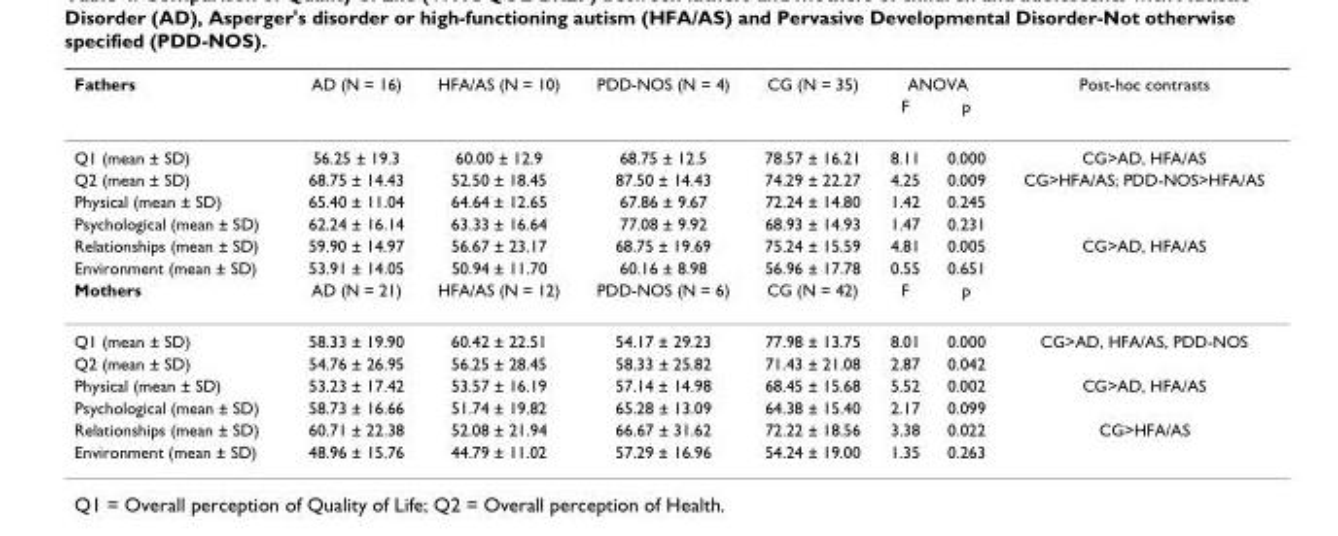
<table><thead><tr><td rowspan="2">Fathers</td><td rowspan="2">AD (N = 16)</td><td rowspan="2">HFA/AS (N = 10)</td><td rowspan="2">PDD-NOS (N = 4)</td><td rowspan="2">CG (N = 35)</td><td colspan="2">ANOVA</td><td rowspan="2">Post-hoc contrasts</td></tr><tr><td>F</td><td>p</td></tr></thead><tbody><tr><td>Q1 (mean ± SD)</td><td>56.25 ± 19.3</td><td>60.00 ± 12.9</td><td>68.75 ± 12.5</td><td>78.57 ± 16.21</td><td>8.11</td><td>0.000</td><td>CG&gt;AD, HFA/AS</td></tr><tr><td>Q2 (mean ± SD)</td><td>68.75 ± 14.43</td><td>52.50 ± 18.45</td><td>87.50 ± 14.43</td><td>74.29 ± 22.27</td><td>4.25</td><td>0.009</td><td>CG&gt;HFA/AS; PDD-NOS&gt;HFA/AS</td></tr><tr><td>Physical (mean ± SD)</td><td>65.40 ± 11.04</td><td>64.64 ± 12.65</td><td>67.86 ± 9.67</td><td>72.24 ± 14.80</td><td>1.42</td><td>0.245</td><td></td></tr><tr><td>Psychological (mean ± SD)</td><td>62.24 ± 16.14</td><td>63.33 ± 16.64</td><td>77.08 ± 9.92</td><td>68.93 ± 14.93</td><td>1.47</td><td>0.231</td><td></td></tr><tr><td>Relationships (mean ± SD)</td><td>59.90 ± 14.97</td><td>56.67 ± 23.17</td><td>68.75 ± 19.69</td><td>75.24 ± 15.59</td><td>4.81</td><td>0.005</td><td>CG&gt;AD, HFA/AS</td></tr><tr><td>Environment (mean ± SD)</td><td>53.91 ± 14.05</td><td>50.94 ± 11.70</td><td>60.16 ± 8.98</td><td>56.96 ± 17.78</td><td>0.55</td><td>0.651</td><td></td></tr><tr><td>Mothers</td><td>AD (N = 21)</td><td>HFA/AS (N = 12)</td><td>PDD-NOS (N = 6)</td><td>CG (N = 42)</td><td>F</td><td>p</td><td></td></tr><tr><td>Q1 (mean ± SD)</td><td>58.33 ± 19.90</td><td>60.42 ± 22.51</td><td>54.17 ± 29.23</td><td>77.98 ± 13.75</td><td>8.01</td><td>0.000</td><td>CG&gt;AD, HFA/AS, PDD-NOS</td></tr><tr><td>Q2 (mean ± SD)</td><td>54.76 ± 26.95</td><td>56.25 ± 28.45</td><td>58.33 ± 25.82</td><td>71.43 ± 21.08</td><td>2.87</td><td>0.042</td><td></td></tr><tr><td>Physical (mean ± SD)</td><td>53.23 ± 17.42</td><td>53.57 ± 16.19</td><td>57.14 ± 14.98</td><td>68.45 ± 15.68</td><td>5.52</td><td>0.002</td><td>CG&gt;AD, HFA/AS</td></tr><tr><td>Psychological (mean ± SD)</td><td>58.73 ± 16.66</td><td>51.74 ± 19.82</td><td>65.28 ± 13.09</td><td>64.38 ± 15.40</td><td>2.17</td><td>0.099</td><td></td></tr><tr><td>Relationships (mean ± SD)</td><td>60.71 ± 22.38</td><td>52.08 ± 21.94</td><td>66.67 ± 31.62</td><td>72.22 ± 18.56</td><td>3.38</td><td>0.022</td><td>CG&gt;HFA/AS</td></tr><tr><td>Environment (mean ± SD)</td><td>48.96 ± 15.76</td><td>44.79 ± 11.02</td><td>57.29 ± 16.96</td><td>54.24 ± 19.00</td><td>1.35</td><td>0.263</td><td></td></tr></tbody></table>